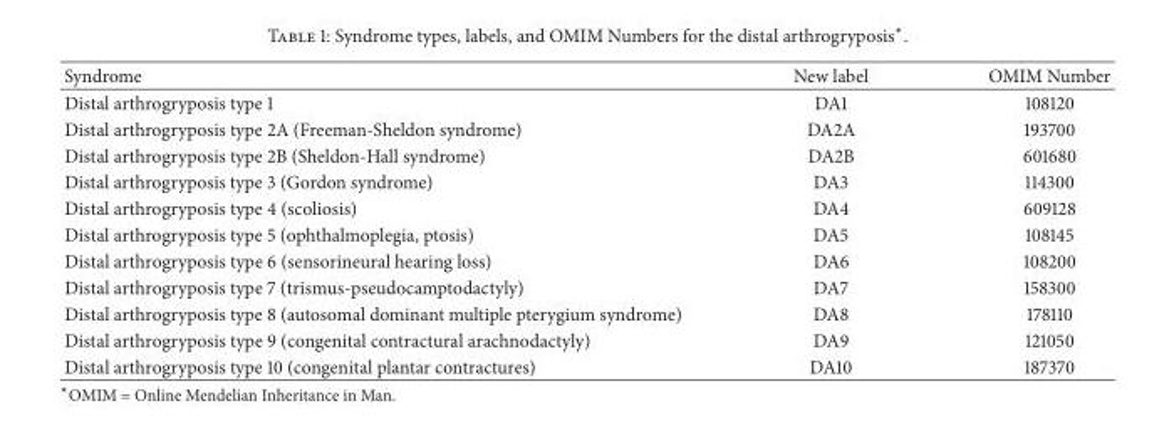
<table><thead><tr><td>Syndrome</td><td>New label</td><td>OMIM Number</td></tr></thead><tbody><tr><td>Distal arthrogryposis type 1</td><td>DA1</td><td>108120</td></tr><tr><td>Distal arthrogryposis type 2A (Freeman-Sheldon syndrome)</td><td>DA2A</td><td>193700</td></tr><tr><td>Distal arthrogryposis type 2B (Sheldon-Hall syndrome)</td><td>DA2B</td><td>601680</td></tr><tr><td>Distal arthrogryposis type 3 (Gordon syndrome)</td><td>DA3</td><td>114300</td></tr><tr><td>Distal arthrogryposis type 4 (scoliosis)</td><td>DA4</td><td>609128</td></tr><tr><td>Distal arthrogryposis type 5 (ophthalmoplegia, ptosis)</td><td>DA5</td><td>108145</td></tr><tr><td>Distal arthrogryposis type 6 (sensorineural hearing loss)</td><td>DA6</td><td>108200</td></tr><tr><td>Distal arthrogryposis type 7 (trismus-pseudocamptodactyly)</td><td>DA7</td><td>158300</td></tr><tr><td>Distal arthrogryposis type 8 (autosomal dominant multiple pterygium syndrome)</td><td>DA8</td><td>178110</td></tr><tr><td>Distal arthrogryposis type 9 (congenital contractural arachnodactyly)</td><td>DA9</td><td>121050</td></tr><tr><td>Distal arthrogryposis type 10 (congenital plantar contractures)</td><td>DA10</td><td>187370</td></tr></tbody></table>